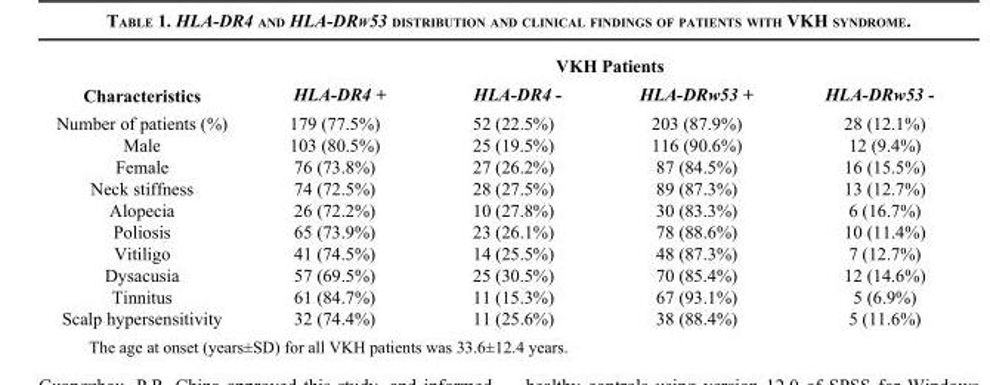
<table><thead><tr><td rowspan="2">Characteristics</td><td colspan="4">VKH Patients</td></tr><tr><td>HLA-DR4 +</td><td>HLA-DR4 -</td><td>HLA-DRw53 +</td><td>HLA-DRw53 -</td></tr></thead><tbody><tr><td>Number of patients (%)</td><td>179 (77.5%)</td><td>52 (22.5%)</td><td>203 (87.9%)</td><td>28 (12.1%)</td></tr><tr><td>Male</td><td>103 (80.5%)</td><td>25 (19.5%)</td><td>116 (90.6%)</td><td>12 (9.4%)</td></tr><tr><td>Female</td><td>76 (73.8%)</td><td>27 (26.2%)</td><td>87 (84.5%)</td><td>16 (15.5%)</td></tr><tr><td>Neck stiffness</td><td>74 (72.5%)</td><td>28 (27.5%)</td><td>89 (87.3%)</td><td>13 (12.7%)</td></tr><tr><td>Alopecia</td><td>26 (72.2%)</td><td>10 (27.8%)</td><td>30 (83.3%)</td><td>6 (16.7%)</td></tr><tr><td>Poliosis</td><td>65 (73.9%)</td><td>23 (26.1%)</td><td>78 (88.6%)</td><td>10 (11.4%)</td></tr><tr><td>Vitiligo</td><td>41 (74.5%)</td><td>14 (25.5%)</td><td>48 (87.3%)</td><td>7 (12.7%)</td></tr><tr><td>Dysacusia</td><td>57 (69.5%)</td><td>25 (30.5%)</td><td>70 (85.4%)</td><td>12 (14.6%)</td></tr><tr><td>Tinnitus</td><td>61 (84.7%)</td><td>11 (15.3%)</td><td>67 (93.1%)</td><td>5 (6.9%)</td></tr><tr><td>Scalp hypersensitivity</td><td>32 (74.4%)</td><td>11 (25.6%)</td><td>38 (88.4%)</td><td>5 (11.6%)</td></tr></tbody></table>